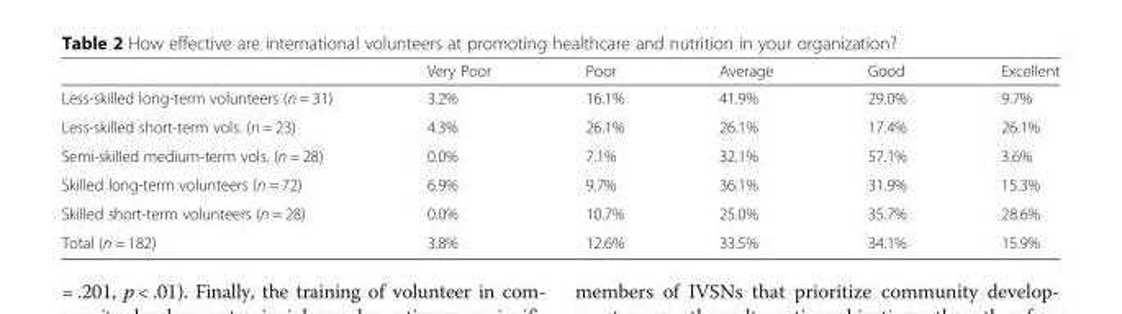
<table><thead><tr><td></td><td>Very Poor</td><td>Poor</td><td>Average</td><td>Good</td><td>Excellent</td></tr></thead><tbody><tr><td>Less-skilled long-term volunteers (n = 31)</td><td>3.2%</td><td>16.1%</td><td>41.9%</td><td>29.0%</td><td>9.7%</td></tr><tr><td>Less-skilled short-term vols. (n = 23)</td><td>4.3%</td><td>26.1%</td><td>26.1%</td><td>17.4%</td><td>26.1%</td></tr><tr><td>Semi-skilled medium-term vols. (n = 28)</td><td>0.0%</td><td>7.1%</td><td>32.1%</td><td>57.1%</td><td>3.6%</td></tr><tr><td>Skilled long-term volunteers (n = 72)</td><td>6.9%</td><td>9.7%</td><td>36.1%</td><td>31.9%</td><td>15.3%</td></tr><tr><td>Skilled short-term volunteers (n = 28)</td><td>0.0%</td><td>10.7%</td><td>25.0%</td><td>35.7%</td><td>28.6%</td></tr><tr><td>Total (n = 182)</td><td>3.8%</td><td>12.6%</td><td>33.5%</td><td>34.1%</td><td>15.9%</td></tr></tbody></table>